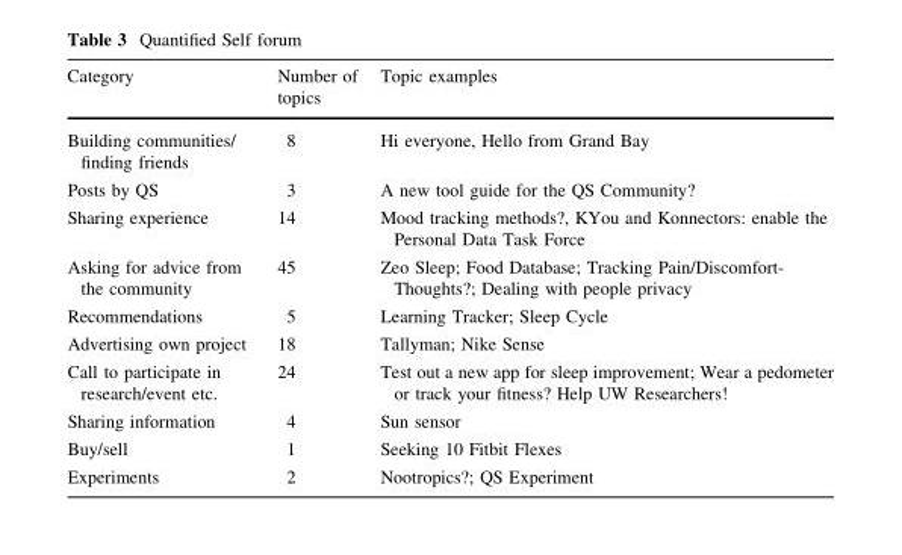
<table><thead><tr><td>Category</td><td>Number of topics</td><td>Topic examples</td></tr></thead><tbody><tr><td>Building communities/ finding friends</td><td>8</td><td>Hi everyone, Hello from Grand Bay</td></tr><tr><td>Posts by QS</td><td>3</td><td>A new tool guide for the QS Community?</td></tr><tr><td>Sharing experience</td><td>14</td><td>Mood tracking methods?, KYou and Konnectors: enable the Personal Data Task Force</td></tr><tr><td>Asking for advice from the community</td><td>45</td><td>Zeo Sleep; Food Database; Tracking Pain/Discomfort- Thoughts?; Dealing with people privacy</td></tr><tr><td>Recommendations</td><td>5</td><td>Learning Tracker; Sleep Cycle</td></tr><tr><td>Advertising own project</td><td>18</td><td>Tallyman; Nike Sense</td></tr><tr><td>Call to participate in research/event etc.</td><td>24</td><td>Test out a new app for sleep improvement; Wear a pedometer or track your fitness? Help UW Researchers!</td></tr><tr><td>Sharing information</td><td>4</td><td>Sun sensor</td></tr><tr><td>Buy/sell</td><td>1</td><td>Seeking 10 Fitbit Flexes</td></tr><tr><td>Experiments</td><td>2</td><td>Nootropics?; QS Experiment</td></tr></tbody></table>